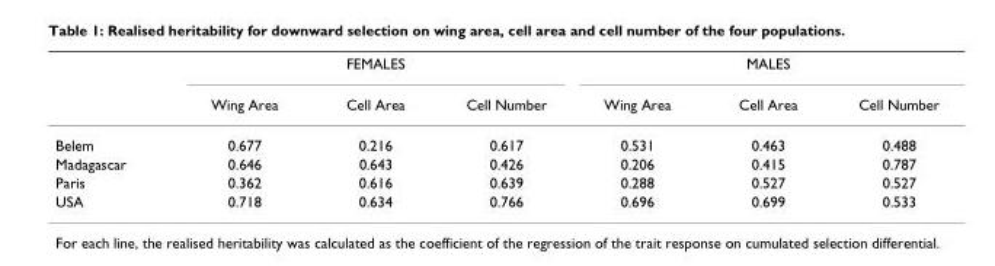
<table><thead><tr><td rowspan="2"></td><td colspan="3">FEMALES</td><td colspan="3">MALES</td></tr><tr><td>Wing Area</td><td>Cell Area</td><td>Cell Number</td><td>Wing Area</td><td>Cell Area</td><td>Cell Number</td></tr></thead><tbody><tr><td>Belem</td><td>0.677</td><td>0.216</td><td>0.617</td><td>0.531</td><td>0.463</td><td>0.488</td></tr><tr><td>Madagascar</td><td>0.646</td><td>0.643</td><td>0.426</td><td>0.206</td><td>0.415</td><td>0.787</td></tr><tr><td>Paris</td><td>0.362</td><td>0.616</td><td>0.639</td><td>0.288</td><td>0.527</td><td>0.527</td></tr><tr><td>USA</td><td>0.718</td><td>0.634</td><td>0.766</td><td>0.696</td><td>0.699</td><td>0.533</td></tr></tbody></table>